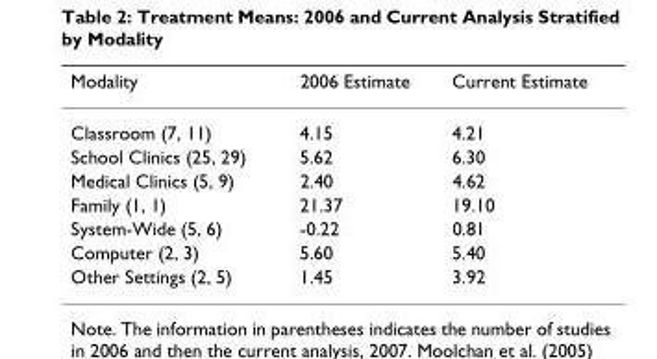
<table><thead><tr><td>Modality</td><td>2006 Estimate</td><td>Current Estimate</td></tr></thead><tbody><tr><td>Classroom (7, 11)</td><td>4.15</td><td>4.21</td></tr><tr><td>School Clinics (25, 29)</td><td>5.62</td><td>6.30</td></tr><tr><td>Medical Clinics (5, 9)</td><td>2.40</td><td>4.62</td></tr><tr><td>Family (1, 1)</td><td>21.37</td><td>19.10</td></tr><tr><td>System-Wide (5, 6)</td><td>-0.22</td><td>0.81</td></tr><tr><td>Computer (2, 3)</td><td>5.60</td><td>5.40</td></tr><tr><td>Other Settings (2, 5)</td><td>1.45</td><td>3.92</td></tr></tbody></table>